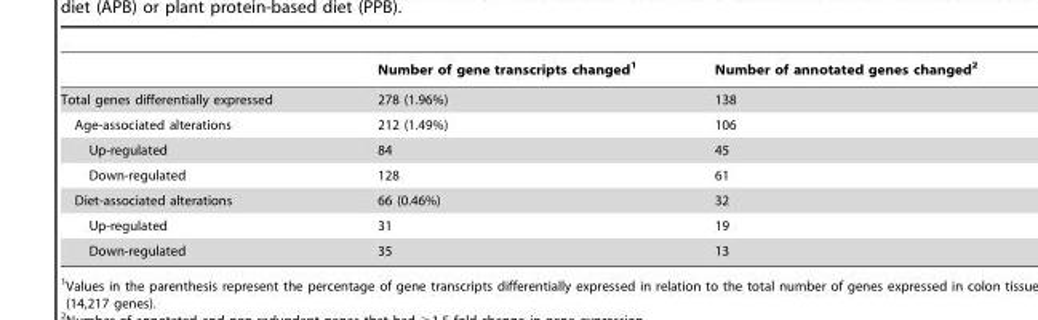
<table><thead><tr><td></td><td>Number of gene transcripts changed<sup>1</sup></td><td>Number of annotated genes changed<sup>2</sup></td></tr></thead><tbody><tr><td>Total genes differentially expressed</td><td>278 (1.96%)</td><td>138</td></tr><tr><td>Age-associated alterations</td><td>212 (1.49%)</td><td>106</td></tr><tr><td>Up-regulated</td><td>84</td><td>45</td></tr><tr><td>Down-regulated</td><td>128</td><td>61</td></tr><tr><td>Diet-associated alterations</td><td>66 (0.46%)</td><td>32</td></tr><tr><td>Up-regulated</td><td>31</td><td>19</td></tr><tr><td>Down-regulated</td><td>35</td><td>13</td></tr></tbody></table>